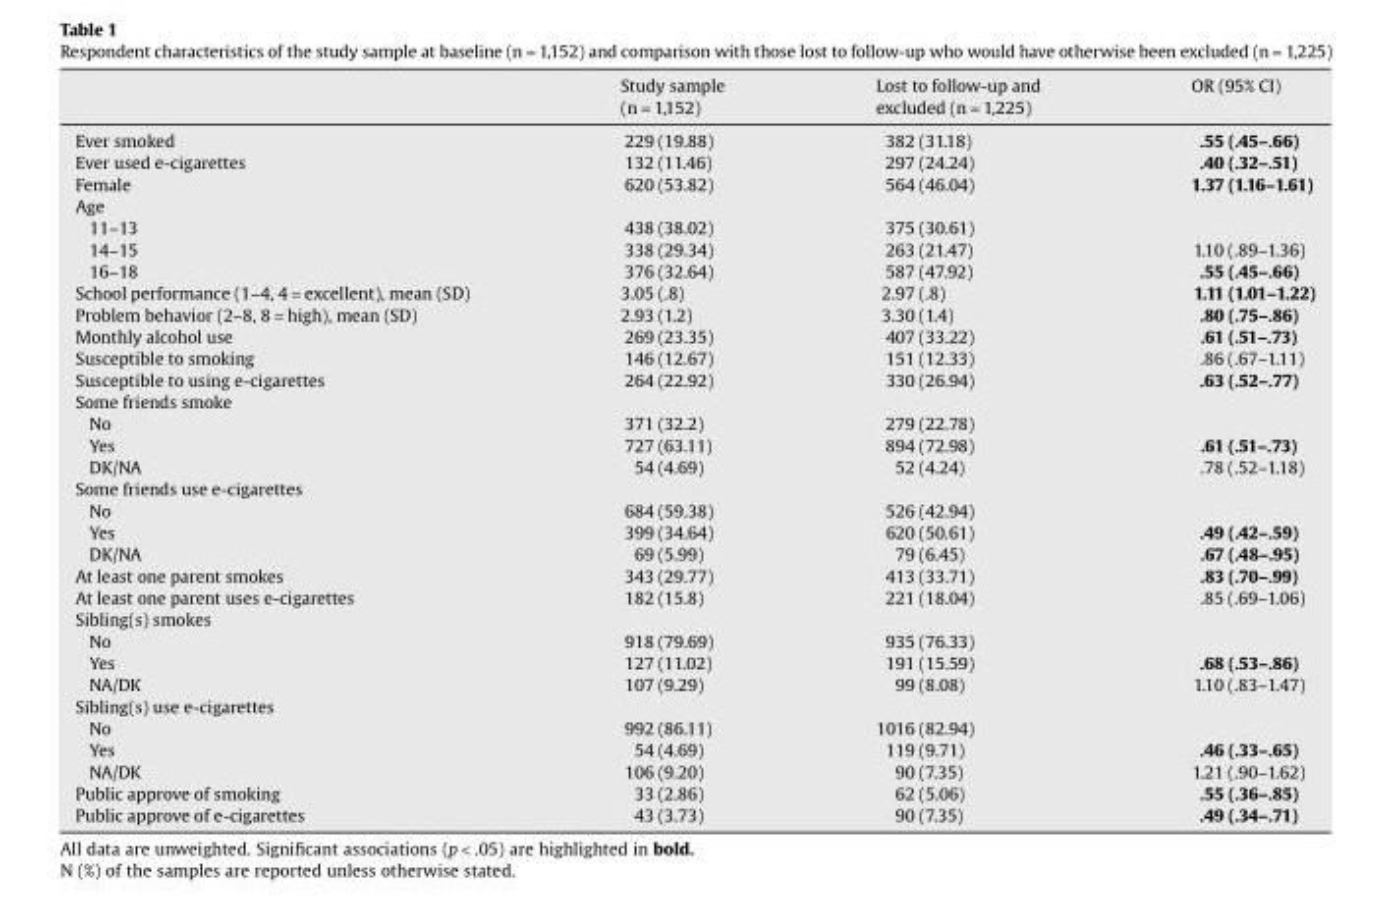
<table><thead><tr><td></td><td>Study sample (n = 1,152)</td><td>Lost to follow-up and excluded (n = 1,225)</td><td>OR (95% CI)</td></tr></thead><tbody><tr><td>Ever smoked</td><td>229 (19.88)</td><td>382 (31.18)</td><td>.55 (.45–.66)</td></tr><tr><td>Ever used e-cigarettes</td><td>132 (11.46)</td><td>297 (24.24)</td><td>.40 (.32–.51)</td></tr><tr><td>Female</td><td>620 (53.82)</td><td>564 (46.04)</td><td>1.37 (1.16–1.61)</td></tr><tr><td colspan="4">Age</td></tr><tr><td>11–13</td><td>438 (38.02)</td><td>375 (30.61)</td><td></td></tr><tr><td>14–15</td><td>338 (29.34)</td><td>263 (21.47)</td><td>1.10 (.89–1.36)</td></tr><tr><td>16–18</td><td>376 (32.64)</td><td>587 (47.92)</td><td>.55 (.45–.66)</td></tr><tr><td>School performance (1–4, 4 = excellent), mean (SD)</td><td>3.05 (.8)</td><td>2.97 (.8)</td><td>1.11 (1.01–1.22)</td></tr><tr><td>Problem behavior (2–8, 8 = high), mean (SD)</td><td>2.93 (1.2)</td><td>3.30 (1.4)</td><td>.80 (.75–.86)</td></tr><tr><td>Monthly alcohol use</td><td>269 (23.35)</td><td>407 (33.22)</td><td>.61 (.51–.73)</td></tr><tr><td>Susceptible to smoking</td><td>146 (12.67)</td><td>151 (12.33)</td><td>.86 (.67–1.11)</td></tr><tr><td>Susceptible to using e-cigarettes</td><td>264 (22.92)</td><td>330 (26.94)</td><td>.63 (.52–.77)</td></tr><tr><td colspan="4">Some friends smoke</td></tr><tr><td>No</td><td>371 (32.2)</td><td>279 (22.78)</td><td></td></tr><tr><td>Yes</td><td>727 (63.11)</td><td>894 (72.98)</td><td>.61 (.51–.73)</td></tr><tr><td>DK/NA</td><td>54 (4.69)</td><td>52 (4.24)</td><td>.78 (.52–1.18)</td></tr><tr><td colspan="4">Some friends use e-cigarettes</td></tr><tr><td>No</td><td>684 (59.38)</td><td>526 (42.94)</td><td></td></tr><tr><td>Yes</td><td>399 (34.64)</td><td>620 (50.61)</td><td>.49 (.42–.59)</td></tr><tr><td>DK/NA</td><td>69 (5.99)</td><td>79 (6.45)</td><td>.67 (.48–.95)</td></tr><tr><td>At least one parent smokes</td><td>343 (29.77)</td><td>413 (33.71)</td><td>.83 (.70–.99)</td></tr><tr><td>At least one parent uses e-cigarettes</td><td>182 (15.8)</td><td>221 (18.04)</td><td>.85 (.69–1.06)</td></tr><tr><td colspan="4">Sibling(s) smokes</td></tr><tr><td>No</td><td>918 (79.69)</td><td>935 (76.33)</td><td></td></tr><tr><td>Yes</td><td>127 (11.02)</td><td>191 (15.59)</td><td>.68 (.53–.86)</td></tr><tr><td>NA/DK</td><td>107 (9.29)</td><td>99 (8.08)</td><td>1.10 (.83–1.47)</td></tr><tr><td colspan="4">Sibling(s) use e-cigarettes</td></tr><tr><td>No</td><td>992 (86.11)</td><td>1016 (82.94)</td><td></td></tr><tr><td>Yes</td><td>54 (4.69)</td><td>119 (9.71)</td><td>.46 (.33–.65)</td></tr><tr><td>NA/DK</td><td>106 (9.20)</td><td>90 (7.35)</td><td>1.21 (.90–1.62)</td></tr><tr><td>Public approve of smoking</td><td>33 (2.86)</td><td>62 (5.06)</td><td>.55 (.36–.85)</td></tr><tr><td>Public approve of e-cigarettes</td><td>43 (3.73)</td><td>90 (7.35)</td><td>.49 (.34–.71)</td></tr></tbody></table>